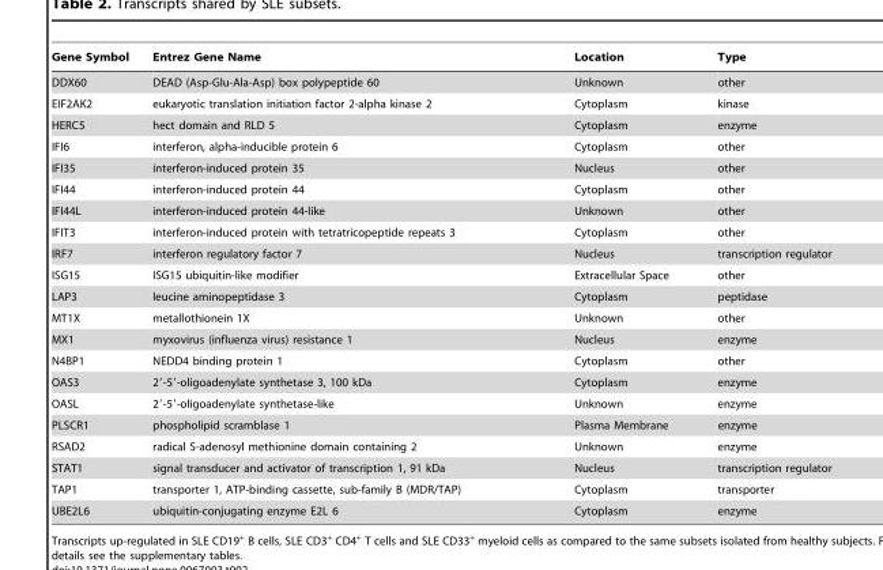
<table><thead><tr><td>Gene Symbol</td><td>Entrez Gene Name</td><td>Location</td><td>Type</td></tr></thead><tbody><tr><td>DDX60</td><td>DEAD (Asp-Glu-Ala-Asp) box polypeptide 60</td><td>Unknown</td><td>other</td></tr><tr><td>EIF2AK2</td><td>eukaryotic translation initiation factor 2-alpha kinase 2</td><td>Cytoplasm</td><td>kinase</td></tr><tr><td>HERC5</td><td>hect domain and RLD 5</td><td>Cytoplasm</td><td>enzyme</td></tr><tr><td>IFI6</td><td>interferon, alpha-inducible protein 6</td><td>Cytoplasm</td><td>other</td></tr><tr><td>IFI35</td><td>interferon-induced protein 35</td><td>Nucleus</td><td>other</td></tr><tr><td>IFI44</td><td>interferon-induced protein 44</td><td>Cytoplasm</td><td>other</td></tr><tr><td>IFI44L</td><td>interferon-induced protein 44-like</td><td>Unknown</td><td>other</td></tr><tr><td>IFIT3</td><td>interferon-induced protein with tetratricopeptide repeats 3</td><td>Cytoplasm</td><td>other</td></tr><tr><td>IRF7</td><td>interferon regulatory factor 7</td><td>Nucleus</td><td>transcription regulator</td></tr><tr><td>ISG15</td><td>ISG15 ubiquitin-like modifier</td><td>Extracellular Space</td><td>other</td></tr><tr><td>LAP3</td><td>leucine aminopeptidase 3</td><td>Cytoplasm</td><td>peptidase</td></tr><tr><td>MT1X</td><td>metallothionein 1X</td><td>Unknown</td><td>other</td></tr><tr><td>MX1</td><td>myxovirus (influenza virus) resistance 1</td><td>Nucleus</td><td>enzyme</td></tr><tr><td>N4BP1</td><td>NEDD4 binding protein 1</td><td>Cytoplasm</td><td>other</td></tr><tr><td>OAS3</td><td>2′-5′-oligoadenylate synthetase 3, 100 kDa</td><td>Cytoplasm</td><td>enzyme</td></tr><tr><td>OASL</td><td>2′-5′-oligoadenylate synthetase-like</td><td>Unknown</td><td>enzyme</td></tr><tr><td>PLSCR1</td><td>phospholipid scramblase 1</td><td>Plasma Membrane</td><td>enzyme</td></tr><tr><td>RSAD2</td><td>radical S-adenosyl methionine domain containing 2</td><td>Unknown</td><td>enzyme</td></tr><tr><td>STAT1</td><td>signal transducer and activator of transcription 1, 91 kDa</td><td>Nucleus</td><td>transcription regulator</td></tr><tr><td>TAP1</td><td>transporter 1, ATP-binding cassette, sub-family B (MDR/TAP)</td><td>Cytoplasm</td><td>transporter</td></tr><tr><td>UBE2L6</td><td>ubiquitin-conjugating enzyme E2L 6</td><td>Cytoplasm</td><td>enzyme</td></tr></tbody></table>